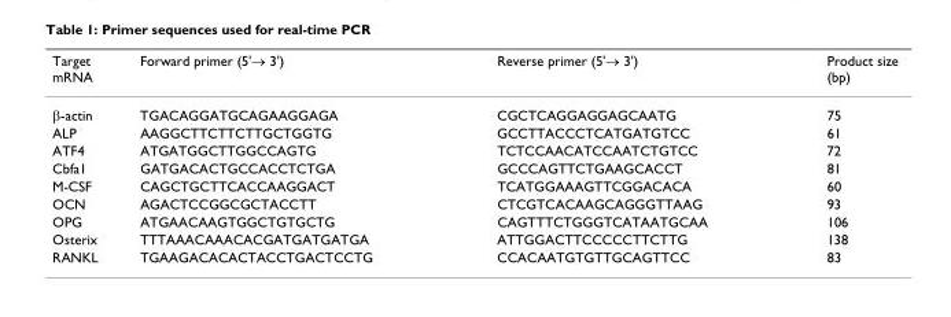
<table><thead><tr><td>Target mRNA</td><td>Forward primer (5&#x27;→ 3&#x27;)</td><td>Reverse primer (5&#x27;→ 3&#x27;)</td><td>Product size (bp)</td></tr></thead><tbody><tr><td>β-actin</td><td>TGACAGGATGCAGAAGGAGA</td><td>CGCTCAGGAGGAGCAATG</td><td>75</td></tr><tr><td>ALP</td><td>AAGGCTTCTTCTTGCTGGTG</td><td>GCCTTACCCTCATGATGTCC</td><td>61</td></tr><tr><td>ATF4</td><td>ATGATGGCTTGGCCAGTG</td><td>TCTCCAACATCCAATCTGTCC</td><td>72</td></tr><tr><td>Cbfa1</td><td>GATGACACTGCCACCTCTGA</td><td>GCCCAGTTCTGAAGCACCT</td><td>81</td></tr><tr><td>M-CSF</td><td>CAGCTGCTTCACCAAGGACT</td><td>TCATGGAAAGTTCGGACACA</td><td>60</td></tr><tr><td>OCN</td><td>AGACTCCGGCGCTACCTT</td><td>CTCGTCACAAGCAGGGTTAAG</td><td>93</td></tr><tr><td>OPG</td><td>ATGAACAAGTGGCTGTGCTG</td><td>CAGTTTCTGGGTCATAATGCAA</td><td>106</td></tr><tr><td>Osterix</td><td>TTTAAACAAACACGATGATGATGA</td><td>ATTGGACTTCCCCCTTCTTG</td><td>138</td></tr><tr><td>RANKL</td><td>TGAAGACACACTACCTGACTCCTG</td><td>CCACAATGTGTTGCAGTTCC</td><td>83</td></tr></tbody></table>